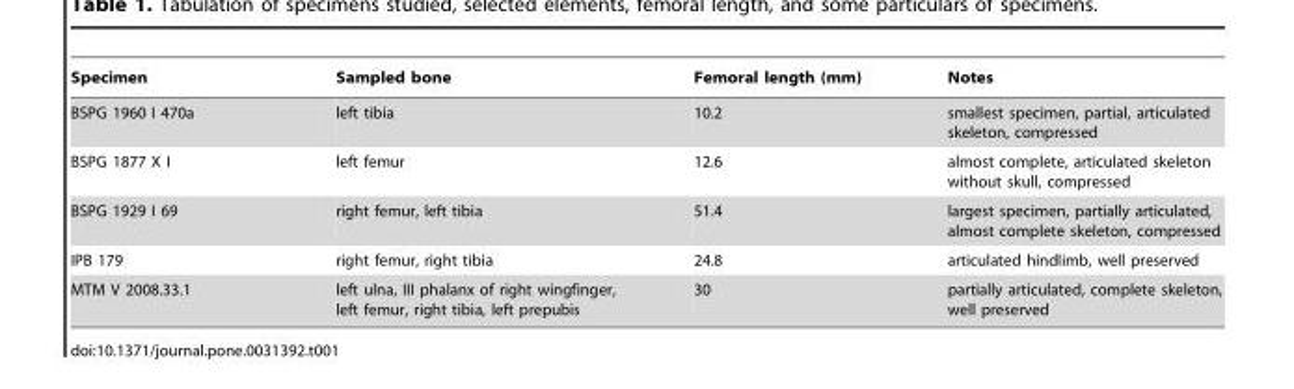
<table><thead><tr><td>Specimen</td><td>Sampled bone</td><td>Femoral length (mm)</td><td>Notes</td></tr></thead><tbody><tr><td>BSPG 1960 I 470a</td><td>left tibia</td><td>10.2</td><td>smallest specimen, partial, articulated skeleton, compressed</td></tr><tr><td>BSPG 1877 X I</td><td>left femur</td><td>12.6</td><td>almost complete, articulated skeleton without skull, compressed</td></tr><tr><td>BSPG 1929 I 69</td><td>right femur, left tibia</td><td>51.4</td><td>largest specimen, partially articulated, almost complete skeleton, compressed</td></tr><tr><td>IPB 179</td><td>right femur, right tibia</td><td>24.8</td><td>articulated hindlimb, well preserved</td></tr><tr><td>MTM V 2008.33.1</td><td>left ulna, III phalanx of right wingfinger, left femur, right tibia, left prepubis</td><td>30</td><td>partially articulated, complete skeleton, well preserved</td></tr></tbody></table>